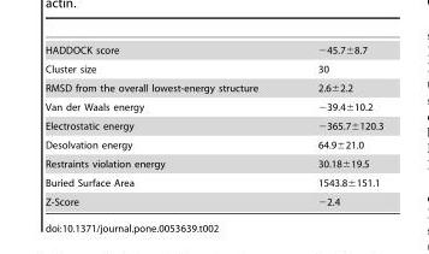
<table><tbody><tr><td>HADDOCK score</td><td>−45.7±8.7</td></tr><tr><td>Cluster size</td><td>30</td></tr><tr><td>RMSD from the overall lowest-energy structure</td><td>2.6±2.2</td></tr><tr><td>Van der Waals energy</td><td>−39.4±10.2</td></tr><tr><td>Electrostatic energy</td><td>−365.7±120.3</td></tr><tr><td>Desolvation energy</td><td>64.9±21.0</td></tr><tr><td>Restraints violation energy</td><td>30.18±19.5</td></tr><tr><td>Buried Surface Area</td><td>1543.8±151.1</td></tr><tr><td>Z-Score</td><td>−2.4</td></tr></tbody></table>